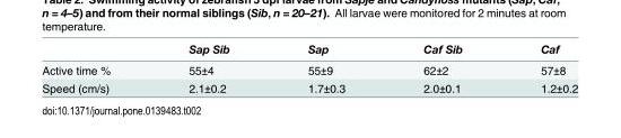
<table><thead><tr><td></td><td>Sap Sib</td><td>Sap</td><td>Caf Sib</td><td>Caf</td></tr></thead><tbody><tr><td>Active time %</td><td>55±4</td><td>55±9</td><td>62±2</td><td>57±8</td></tr><tr><td>Speed (cm/s)</td><td>2.1±0.2</td><td>1.7±0.3</td><td>2.0±0.1</td><td>1.2±0.2</td></tr></tbody></table>